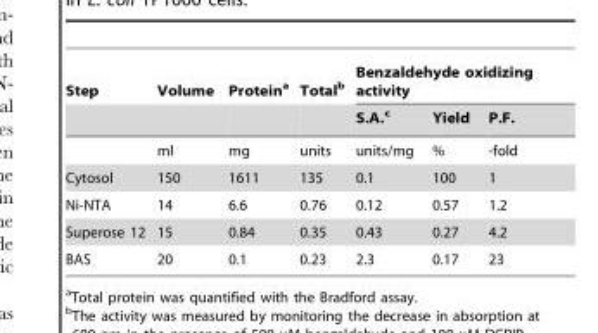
<table><thead><tr><td rowspan="2">Step</td><td rowspan="2">Volume</td><td rowspan="2">Protein<sup>a</sup></td><td rowspan="2">Total<sup>b</sup></td><td colspan="3">Benzaldehyde oxidizing activity</td></tr><tr><td>S.A.<sup>c</sup></td><td>Yield</td><td>P.F.</td></tr></thead><tbody><tr><td></td><td>ml</td><td>mg</td><td>units</td><td>units/mg</td><td>%</td><td>-fold</td></tr><tr><td>Cytosol</td><td>150</td><td>1611</td><td>135</td><td>0.1</td><td>100</td><td>1</td></tr><tr><td>Ni-NTA</td><td>14</td><td>6.6</td><td>0.76</td><td>0.12</td><td>0.57</td><td>1.2</td></tr><tr><td>Superose 12</td><td>15</td><td>0.84</td><td>0.35</td><td>0.43</td><td>0.27</td><td>4.2</td></tr><tr><td>BAS</td><td>20</td><td>0.1</td><td>0.23</td><td>2.3</td><td>0.17</td><td>23</td></tr></tbody></table>